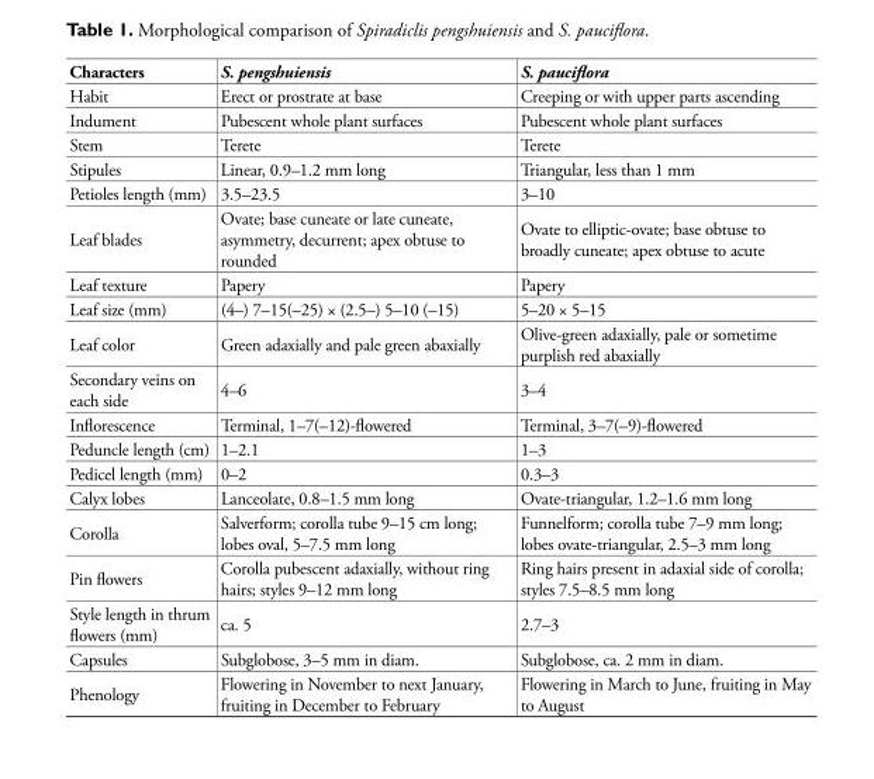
<table><thead><tr><td>Characters</td><td>S. pengshuiensis</td><td>S. paucifl ora</td></tr></thead><tbody><tr><td>Habit</td><td>Erect or prostrate at base</td><td>Creeping or with upper parts ascending</td></tr><tr><td>Indument</td><td>Pubescent whole plant surfaces</td><td>Pubescent whole plant surfaces</td></tr><tr><td>Stem</td><td>Terete</td><td>Terete</td></tr><tr><td>Stipules</td><td>Linear, 0.9–1.2 mm long</td><td>Triangular, less than 1 mm</td></tr><tr><td>Petioles length (mm)</td><td>3.5–23.5</td><td>3–10</td></tr><tr><td>Leaf blades</td><td>Ovate; base cuneate or late cuneate, asymmetry, decurrent; apex obtuse to rounded</td><td>Ovate to elliptic-ovate; base obtuse to broadly cuneate; apex obtuse to acute</td></tr><tr><td>Leaf texture</td><td>Papery</td><td>Papery</td></tr><tr><td>Leaf size (mm)</td><td>(4–) 7–15(–25) × (2.5–) 5–10 (–15)</td><td>5–20 × 5–15</td></tr><tr><td>Leaf color</td><td>Green adaxially and pale green abaxially</td><td>Olive-green adaxially, pale or sometime purplish red abaxially</td></tr><tr><td>Secondary veins on each side</td><td>4–6</td><td>3–4</td></tr><tr><td>Infl orescence</td><td>Terminal, 1–7(–12)-fl owered</td><td>Terminal, 3–7(–9)-fl owered</td></tr><tr><td>Peduncle length (cm)</td><td>1–2.1</td><td>1–3</td></tr><tr><td>Pedicel length (mm)</td><td>0–2</td><td>0.3–3</td></tr><tr><td>Calyx lobes</td><td>Lanceolate, 0.8–1.5 mm long</td><td>Ovate-triangular, 1.2–1.6 mm long</td></tr><tr><td>Corolla</td><td>Salverform; corolla tube 9–15 cm long; lobes oval, 5–7.5 mm long</td><td>Funnelform; corolla tube 7–9 mm long; lobes ovate-triangular, 2.5–3 mm long</td></tr><tr><td>Pin fl owers</td><td>Corolla pubescent adaxially, without ring hairs; styles 9–12 mm long</td><td>Ring hairs present in adaxial side of corolla; styles 7.5–8.5 mm long</td></tr><tr><td>Style length in thrum fl owers (mm)</td><td>ca. 5</td><td>2.7–3</td></tr><tr><td>Capsules</td><td>Subglobose, 3–5 mm in diam.</td><td>Subglobose, ca. 2 mm in diam.</td></tr><tr><td>Phenology</td><td>Flowering in November to next January, fruiting in December to February</td><td>Flowering in March to June, fruiting in May to August</td></tr></tbody></table>